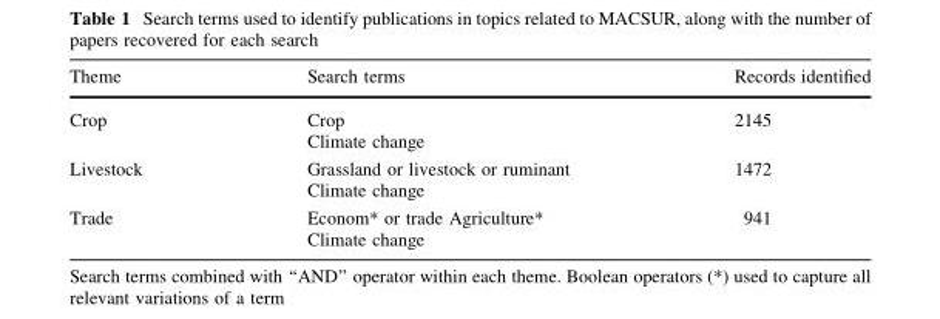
<table><thead><tr><td>Theme</td><td>Search terms</td><td>Records identified</td></tr></thead><tbody><tr><td>Crop</td><td>Crop Climate change</td><td>2145</td></tr><tr><td>Livestock</td><td>Grassland or livestock or ruminant Climate change</td><td>1472</td></tr><tr><td>Trade</td><td>Econom* or trade Agriculture* Climate change</td><td>941</td></tr></tbody></table>